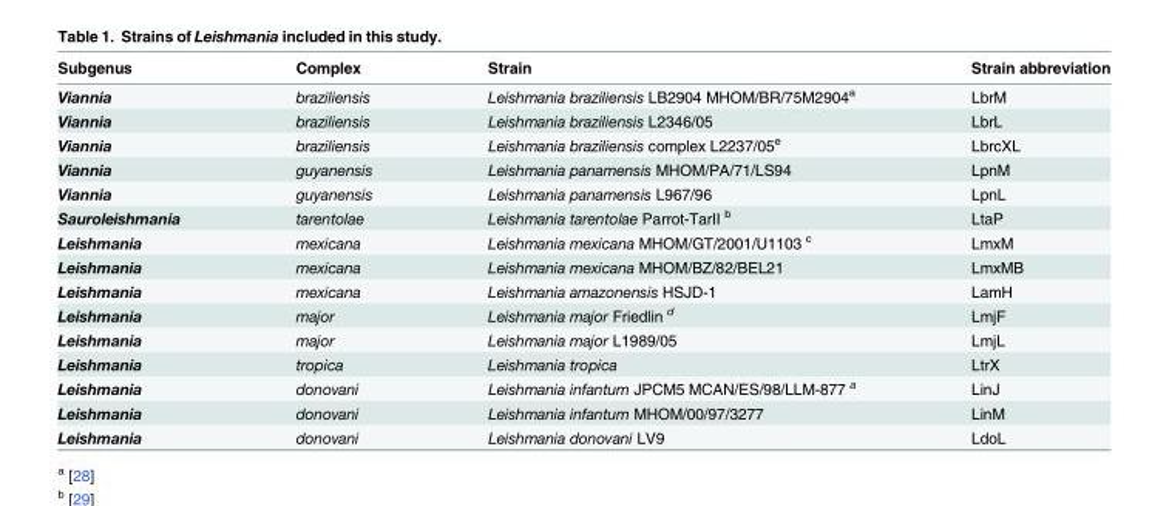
<table><thead><tr><td>Subgenus</td><td>Complex</td><td>Strain</td><td>Strain abbreviation</td></tr></thead><tbody><tr><td>Viannia</td><td>braziliensis</td><td>Leishmania braziliensis LB2904 MHOM/BR/75M2904<sup>a</sup></td><td>LbrM</td></tr><tr><td>Viannia</td><td>braziliensis</td><td>Leishmania braziliensis L2346/05</td><td>LbrL</td></tr><tr><td>Viannia</td><td>braziliensis</td><td>Leishmania braziliensis complex L2237/05<sup>e</sup></td><td>LbrcXL</td></tr><tr><td>Viannia</td><td>guyanensis</td><td>Leishmania panamensis MHOM/PA/71/LS94</td><td>LpnM</td></tr><tr><td>Viannia</td><td>guyanensis</td><td>Leishmania panamensis L967/96</td><td>LpnL</td></tr><tr><td>Sauroleishmania</td><td>tarentolae</td><td>Leishmania tarentolae Parrot-TarII <sup>b</sup></td><td>LtaP</td></tr><tr><td>Leishmania</td><td>mexicana</td><td>Leishmania mexicana MHOM/GT/2001/U1103 <sup>c</sup></td><td>LmxM</td></tr><tr><td>Leishmania</td><td>mexicana</td><td>Leishmania mexicana MHOM/BZ/82/BEL21</td><td>LmxMB</td></tr><tr><td>Leishmania</td><td>mexicana</td><td>Leishmania amazonensis HSJD-1</td><td>LamH</td></tr><tr><td>Leishmania</td><td>major</td><td>Leishmania major Friedlin <sup>d</sup></td><td>LmjF</td></tr><tr><td>Leishmania</td><td>major</td><td>Leishmania major L1989/05</td><td>LmjL</td></tr><tr><td>Leishmania</td><td>tropica</td><td>Leishmania tropica</td><td>LtrX</td></tr><tr><td>Leishmania</td><td>donovani</td><td>Leishmania infantum JPCM5 MCAN/ES/98/LLM-877 <sup>a</sup></td><td>LinJ</td></tr><tr><td>Leishmania</td><td>donovani</td><td>Leishmania infantum MHOM/00/97/3277</td><td>LinM</td></tr><tr><td>Leishmania</td><td>donovani</td><td>Leishmania donovani LV9</td><td>LdoL</td></tr></tbody></table>